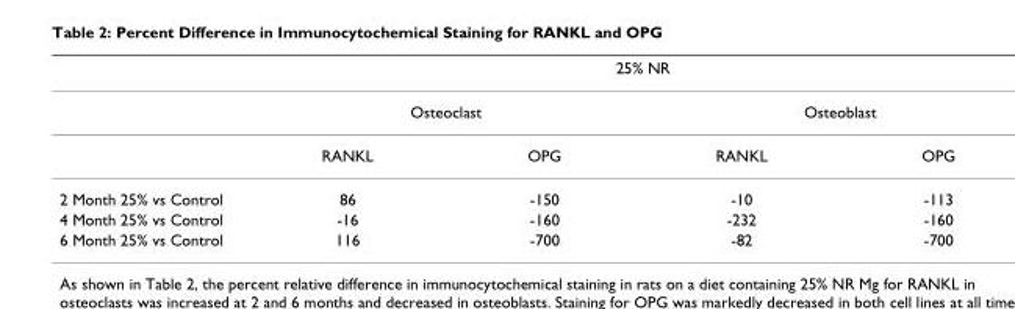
<table><thead><tr><td rowspan="3"></td><td colspan="4">25% NR</td></tr><tr><td colspan="2">Osteoclast</td><td colspan="2">Osteoblast</td></tr><tr><td>RANKL</td><td>OPG</td><td>RANKL</td><td>OPG</td></tr></thead><tbody><tr><td>2 Month 25% vs Control</td><td>86</td><td>-150</td><td>-10</td><td>-113</td></tr><tr><td>4 Month 25% vs Control</td><td>-16</td><td>-160</td><td>-232</td><td>-160</td></tr><tr><td>6 Month 25% vs Control</td><td>116</td><td>-700</td><td>-82</td><td>-700</td></tr></tbody></table>